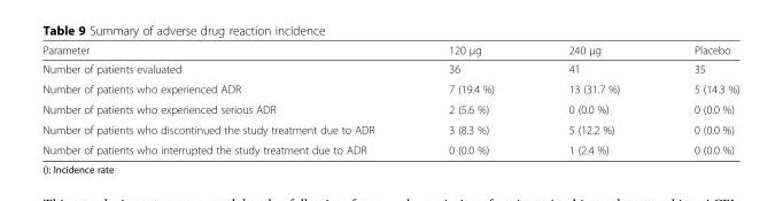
<table><thead><tr><td>Parameter</td><td>120 μg</td><td>240 μg</td><td>Placebo</td></tr></thead><tbody><tr><td>Number of patients evaluated</td><td>36</td><td>41</td><td>35</td></tr><tr><td>Number of patients who experienced ADR</td><td>7 (19.4 %)</td><td>13 (31.7 %)</td><td>5 (14.3 %)</td></tr><tr><td>Number of patients who experienced serious ADR</td><td>2 (5.6 %)</td><td>0 (0.0 %)</td><td>0 (0.0 %)</td></tr><tr><td>Number of patients who discontinued the study treatment due to ADR</td><td>3 (8.3 %)</td><td>5 (12.2 %)</td><td>0 (0.0 %)</td></tr><tr><td>Number of patients who interrupted the study treatment due to ADR</td><td>0 (0.0 %)</td><td>1 (2.4 %)</td><td>0 (0.0 %)</td></tr></tbody></table>